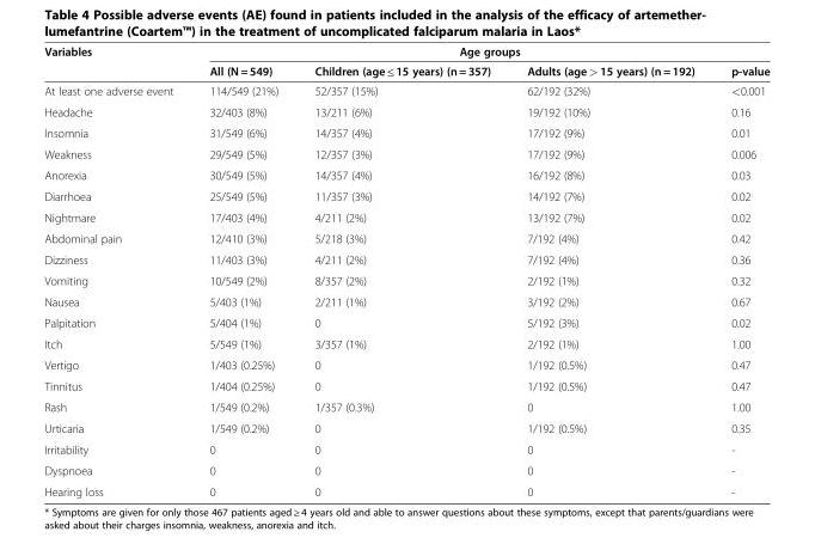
<table><thead><tr><td rowspan="2">Variables</td><td colspan="4">Age groups</td></tr><tr><td>All (N = 549)</td><td>Children (age ≤ 15 years) (n = 357)</td><td>Adults (age &gt; 15 years) (n = 192)</td><td>p-value</td></tr></thead><tbody><tr><td>At least one adverse event</td><td>114/549 (21%)</td><td>52/357 (15%)</td><td>62/192 (32%)</td><td>&lt;0.001</td></tr><tr><td>Headache</td><td>32/403 (8%)</td><td>13/211 (6%)</td><td>19/192 (10%)</td><td>0.16</td></tr><tr><td>Insomnia</td><td>31/549 (6%)</td><td>14/357 (4%)</td><td>17/192 (9%)</td><td>0.01</td></tr><tr><td>Weakness</td><td>29/549 (5%)</td><td>12/357 (3%)</td><td>17/192 (9%)</td><td>0.006</td></tr><tr><td>Anorexia</td><td>30/549 (5%)</td><td>14/357 (4%)</td><td>16/192 (8%)</td><td>0.03</td></tr><tr><td>Diarrhoea</td><td>25/549 (5%)</td><td>11/357 (3%)</td><td>14/192 (7%)</td><td>0.02</td></tr><tr><td>Nightmare</td><td>17/403 (4%)</td><td>4/211 (2%)</td><td>13/192 (7%)</td><td>0.02</td></tr><tr><td>Abdominal pain</td><td>12/410 (3%)</td><td>5/218 (3%)</td><td>7/192 (4%)</td><td>0.42</td></tr><tr><td>Dizziness</td><td>11/403 (3%)</td><td>4/211 (2%)</td><td>7/192 (4%)</td><td>0.36</td></tr><tr><td>Vomiting</td><td>10/549 (2%)</td><td>8/357 (2%)</td><td>2/192 (1%)</td><td>0.32</td></tr><tr><td>Nausea</td><td>5/403 (1%)</td><td>2/211 (1%)</td><td>3/192 (2%)</td><td>0.67</td></tr><tr><td>Palpitation</td><td>5/404 (1%)</td><td>0</td><td>5/192 (3%)</td><td>0.02</td></tr><tr><td>Itch</td><td>5/549 (1%)</td><td>3/357 (1%)</td><td>2/192 (1%)</td><td>1.00</td></tr><tr><td>Vertigo</td><td>1/403 (0.25%)</td><td>0</td><td>1/192 (0.5%)</td><td>0.47</td></tr><tr><td>Tinnitus</td><td>1/404 (0.25%)</td><td>0</td><td>1/192 (0.5%)</td><td>0.47</td></tr><tr><td>Rash</td><td>1/549 (0.2%)</td><td>1/357 (0.3%)</td><td>0</td><td>1.00</td></tr><tr><td>Urticaria</td><td>1/549 (0.2%)</td><td>0</td><td>1/192 (0.5%)</td><td>0.35</td></tr><tr><td>Irritability</td><td>0</td><td>0</td><td>0</td><td>-</td></tr><tr><td>Dyspnoea</td><td>0</td><td>0</td><td>0</td><td>-</td></tr><tr><td>Hearing loss</td><td>0</td><td>0</td><td>0</td><td>-</td></tr></tbody></table>